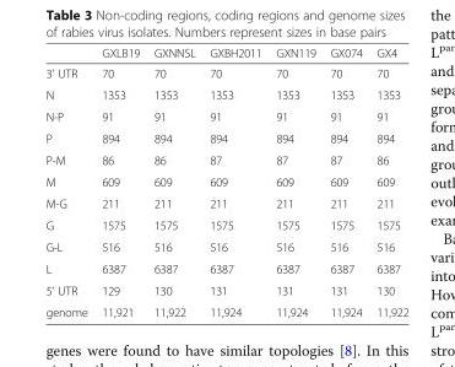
<table><thead><tr><td></td><td>GXLB19</td><td>GXNNSL</td><td>GXBH2011</td><td>GXN119</td><td>GX074</td><td>GX4</td></tr></thead><tbody><tr><td>3’ UTR</td><td>70</td><td>70</td><td>70</td><td>70</td><td>70</td><td>70</td></tr><tr><td>N</td><td>1353</td><td>1353</td><td>1353</td><td>1353</td><td>1353</td><td>1353</td></tr><tr><td>N-P</td><td>91</td><td>91</td><td>91</td><td>91</td><td>91</td><td>91</td></tr><tr><td>P</td><td>894</td><td>894</td><td>894</td><td>894</td><td>894</td><td>894</td></tr><tr><td>P-M</td><td>86</td><td>86</td><td>87</td><td>87</td><td>87</td><td>86</td></tr><tr><td>M</td><td>609</td><td>609</td><td>609</td><td>609</td><td>609</td><td>609</td></tr><tr><td>M-G</td><td>211</td><td>211</td><td>211</td><td>211</td><td>211</td><td>211</td></tr><tr><td>G</td><td>1575</td><td>1575</td><td>1575</td><td>1575</td><td>1575</td><td>1575</td></tr><tr><td>G-L</td><td>516</td><td>516</td><td>516</td><td>516</td><td>516</td><td>516</td></tr><tr><td>L</td><td>6387</td><td>6387</td><td>6387</td><td>6387</td><td>6387</td><td>6387</td></tr><tr><td>5’ UTR</td><td>129</td><td>130</td><td>131</td><td>131</td><td>131</td><td>130</td></tr><tr><td>genome</td><td>11,921</td><td>11,922</td><td>11,924</td><td>11,924</td><td>11,924</td><td>11,922</td></tr></tbody></table>